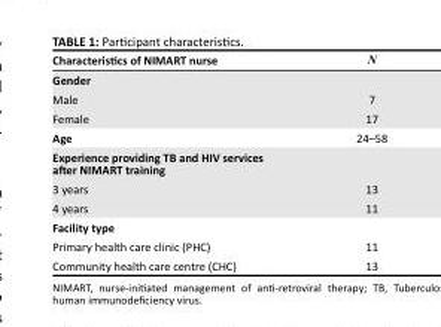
<table><thead><tr><td>Characteristics of NIMART nurse</td><td>N</td></tr></thead><tbody><tr><td colspan="2">Gender</td></tr><tr><td>Male</td><td>7</td></tr><tr><td>Female</td><td>17</td></tr><tr><td>Age</td><td>24–58</td></tr><tr><td colspan="2">Experience providing TB and HIV services after NIMART training</td></tr><tr><td>3 years</td><td>13</td></tr><tr><td>4 years</td><td>11</td></tr><tr><td colspan="2">Facility type</td></tr><tr><td>Primary health care clinic (PHC)</td><td>11</td></tr><tr><td>Community health care centre (CHC)</td><td>13</td></tr></tbody></table>